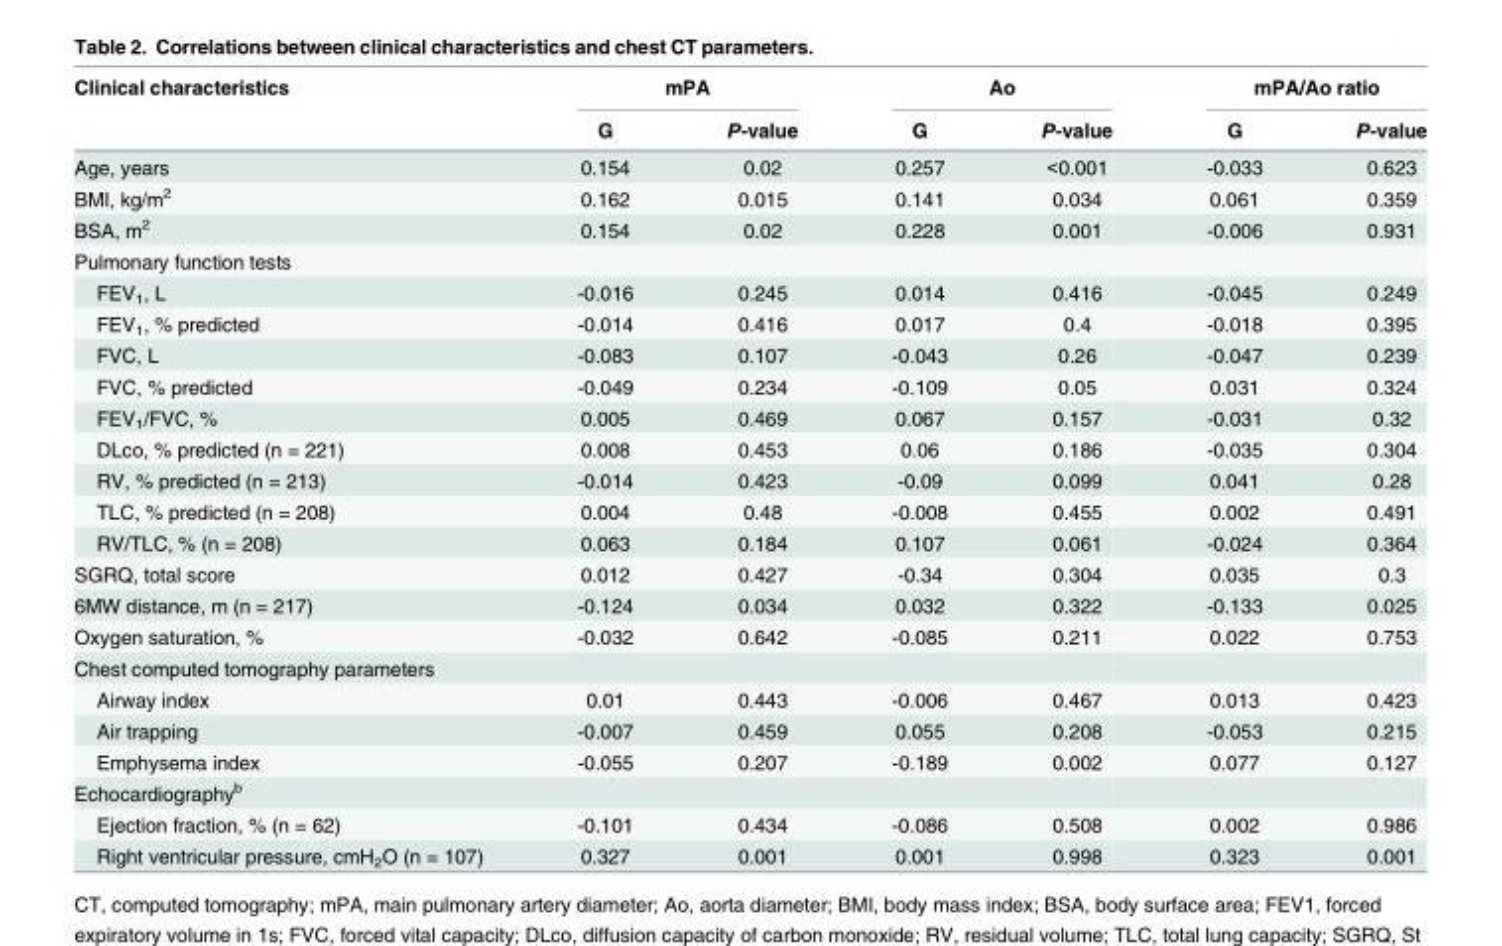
<table><thead><tr><td rowspan="2">Clinical characteristics</td><td colspan="2">mPA</td><td colspan="2">Ao</td><td colspan="2">mPA/Ao ratio</td></tr><tr><td>G</td><td>P-value</td><td>G</td><td>P-value</td><td>G</td><td>P-value</td></tr></thead><tbody><tr><td>Age, years</td><td>0.154</td><td>0.02</td><td>0.257</td><td>&lt;0.001</td><td>-0.033</td><td>0.623</td></tr><tr><td>BMI, kg/m<sup>2</sup></td><td>0.162</td><td>0.015</td><td>0.141</td><td>0.034</td><td>0.061</td><td>0.359</td></tr><tr><td>BSA, m<sup>2</sup></td><td>0.154</td><td>0.02</td><td>0.228</td><td>0.001</td><td>-0.006</td><td>0.931</td></tr><tr><td colspan="7">Pulmonary function tests</td></tr><tr><td>FEV<sub>1</sub>, L</td><td>-0.016</td><td>0.245</td><td>0.014</td><td>0.416</td><td>-0.045</td><td>0.249</td></tr><tr><td>FEV<sub>1</sub>, % predicted</td><td>-0.014</td><td>0.416</td><td>0.017</td><td>0.4</td><td>-0.018</td><td>0.395</td></tr><tr><td>FVC, L</td><td>-0.083</td><td>0.107</td><td>-0.043</td><td>0.26</td><td>-0.047</td><td>0.239</td></tr><tr><td>FVC, % predicted</td><td>-0.049</td><td>0.234</td><td>-0.109</td><td>0.05</td><td>0.031</td><td>0.324</td></tr><tr><td>FEV<sub>1</sub>/FVC, %</td><td>0.005</td><td>0.469</td><td>0.067</td><td>0.157</td><td>-0.031</td><td>0.32</td></tr><tr><td>DLco, % predicted (n = 221)</td><td>0.008</td><td>0.453</td><td>0.06</td><td>0.186</td><td>-0.035</td><td>0.304</td></tr><tr><td>RV, % predicted (n = 213)</td><td>-0.014</td><td>0.423</td><td>-0.09</td><td>0.099</td><td>0.041</td><td>0.28</td></tr><tr><td>TLC, % predicted (n = 208)</td><td>0.004</td><td>0.48</td><td>-0.008</td><td>0.455</td><td>0.002</td><td>0.491</td></tr><tr><td>RV/TLC, % (n = 208)</td><td>0.063</td><td>0.184</td><td>0.107</td><td>0.061</td><td>-0.024</td><td>0.364</td></tr><tr><td>SGRQ, total score</td><td>0.012</td><td>0.427</td><td>-0.34</td><td>0.304</td><td>0.035</td><td>0.3</td></tr><tr><td>6MW distance, m (n = 217)</td><td>-0.124</td><td>0.034</td><td>0.032</td><td>0.322</td><td>-0.133</td><td>0.025</td></tr><tr><td>Oxygen saturation, %</td><td>-0.032</td><td>0.642</td><td>-0.085</td><td>0.211</td><td>0.022</td><td>0.753</td></tr><tr><td colspan="7">Chest computed tomography parameters</td></tr><tr><td>Airway index</td><td>0.01</td><td>0.443</td><td>-0.006</td><td>0.467</td><td>0.013</td><td>0.423</td></tr><tr><td>Air trapping</td><td>-0.007</td><td>0.459</td><td>0.055</td><td>0.208</td><td>-0.053</td><td>0.215</td></tr><tr><td>Emphysema index</td><td>-0.055</td><td>0.207</td><td>-0.189</td><td>0.002</td><td>0.077</td><td>0.127</td></tr><tr><td colspan="7">Echocardiography<sup>b</sup></td></tr><tr><td>Ejection fraction, % (n = 62)</td><td>-0.101</td><td>0.434</td><td>-0.086</td><td>0.508</td><td>0.002</td><td>0.986</td></tr><tr><td>Right ventricular pressure, cmH<sub>2</sub>O (n = 107)</td><td>0.327</td><td>0.001</td><td>0.001</td><td>0.998</td><td>0.323</td><td>0.001</td></tr></tbody></table>